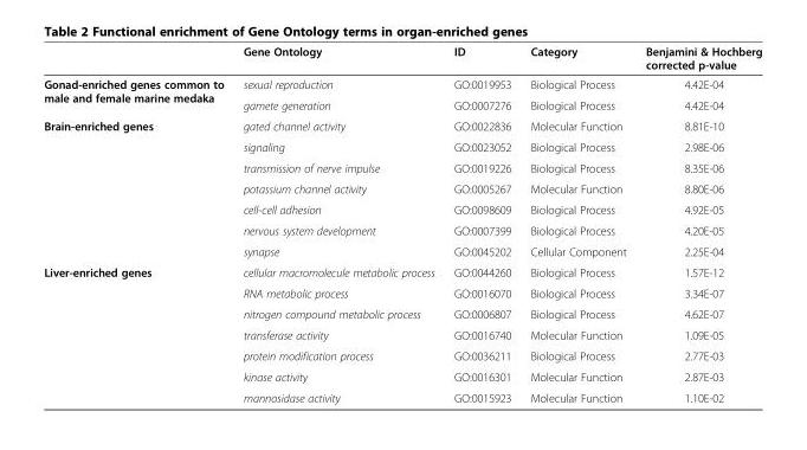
<table><thead><tr><td></td><td>Gene Ontology</td><td>ID</td><td>Category</td><td>Benjamini &amp; Hochberg corrected p-value</td></tr></thead><tbody><tr><td rowspan="2">Gonad-enriched genes common to male and female marine medaka</td><td>sexual reproduction</td><td>GO:0019953</td><td>Biological Process</td><td>4.42E-04</td></tr><tr><td>gamete generation</td><td>GO:0007276</td><td>Biological Process</td><td>4.42E-04</td></tr><tr><td rowspan="7">Brain-enriched genes</td><td>gated channel activity</td><td>GO:0022836</td><td>Molecular Function</td><td>8.81E-10</td></tr><tr><td>signaling</td><td>GO:0023052</td><td>Biological Process</td><td>2.98E-06</td></tr><tr><td>transmission of nerve impulse</td><td>GO:0019226</td><td>Biological Process</td><td>8.35E-06</td></tr><tr><td>potassium channel activity</td><td>GO:0005267</td><td>Molecular Function</td><td>8.80E-06</td></tr><tr><td>cell-cell adhesion</td><td>GO:0098609</td><td>Biological Process</td><td>4.92E-05</td></tr><tr><td>nervous system development</td><td>GO:0007399</td><td>Biological Process</td><td>4.20E-05</td></tr><tr><td>synapse</td><td>GO:0045202</td><td>Cellular Component</td><td>2.25E-04</td></tr><tr><td rowspan="7">Liver-enriched genes</td><td>cellular macromolecule metabolic process</td><td>GO:0044260</td><td>Biological Process</td><td>1.57E-12</td></tr><tr><td>RNA metabolic process</td><td>GO:0016070</td><td>Biological Process</td><td>3.34E-07</td></tr><tr><td>nitrogen compound metabolic process</td><td>GO:0006807</td><td>Biological Process</td><td>4.62E-07</td></tr><tr><td>transferase activity</td><td>GO:0016740</td><td>Molecular Function</td><td>1.09E-05</td></tr><tr><td>protein modification process</td><td>GO:0036211</td><td>Biological Process</td><td>2.77E-03</td></tr><tr><td>kinase activity</td><td>GO:0016301</td><td>Molecular Function</td><td>2.87E-03</td></tr><tr><td>mannosidase activity</td><td>GO:0015923</td><td>Molecular Function</td><td>1.10E-02</td></tr></tbody></table>